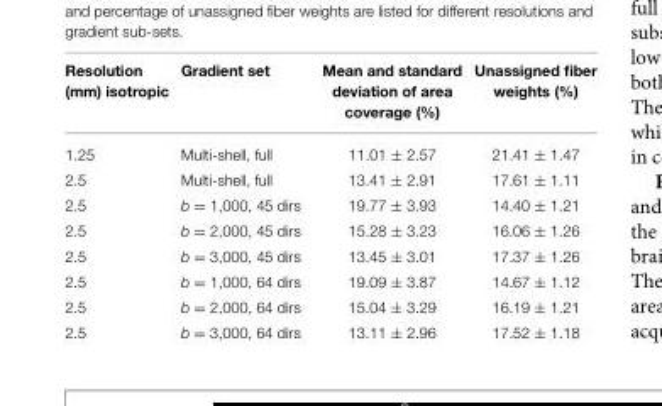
<table><thead><tr><td>Resolution (mm) isotropic</td><td>Gradient set</td><td>Mean and standard deviation of area coverage (%)</td><td>Unassigned fiber weights (%)</td></tr></thead><tbody><tr><td>1.25</td><td>Multi-shell, full</td><td>11.01 ± 2.57</td><td>21.41 ± 1.47</td></tr><tr><td>2.5</td><td>Multi-shell, full</td><td>13.41 ± 2.91</td><td>17.61 ± 1.11</td></tr><tr><td>2.5</td><td>b = 1,000, 45 dirs</td><td>19.77 ± 3.93</td><td>14.40 ± 1.21</td></tr><tr><td>2.5</td><td>b = 2,000, 45 dirs</td><td>15.28 ± 3.23</td><td>16.06 ± 1.26</td></tr><tr><td>2.5</td><td>b = 3,000, 45 dirs</td><td>13.45 ± 3.01</td><td>17.37 ± 1.26</td></tr><tr><td>2.5</td><td>b = 1,000, 64 dirs</td><td>19.09 ± 3.87</td><td>14.67 ± 1.12</td></tr><tr><td>2.5</td><td>b = 2,000, 64 dirs</td><td>15.04 ± 3.29</td><td>16.19 ± 1.21</td></tr><tr><td>2.5</td><td>b = 3,000, 64 dirs</td><td>13.11 ± 2.96</td><td>17.52 ± 1.18</td></tr></tbody></table>